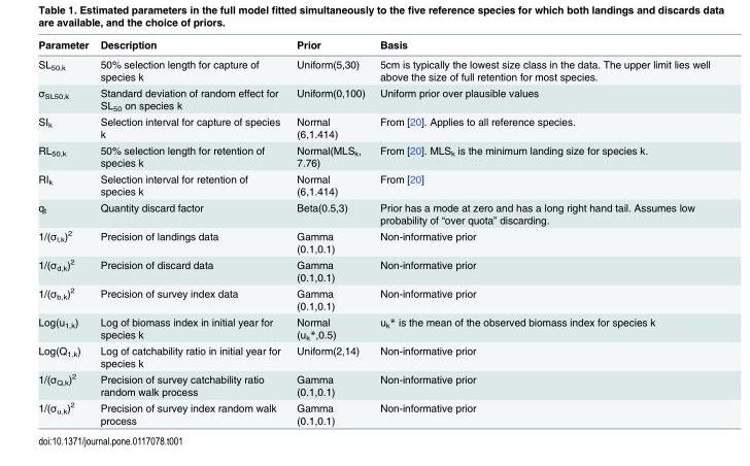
<table><thead><tr><td>Parameter</td><td>Description</td><td>Prior</td><td>Basis</td></tr></thead><tbody><tr><td>SL<sub>50,k</sub></td><td>50% selection length for capture of species k</td><td>Uniform(5,30)</td><td>5cm is typically the lowest size class in the data. The upper limit lies well above the size of full retention for most species.</td></tr><tr><td>σ<sub>SL50,k</sub></td><td>Standard deviation of random effect for SL<sub>50</sub> on species k</td><td>Uniform(0,100)</td><td>Uniform prior over plausible values</td></tr><tr><td>SI<sub>k</sub></td><td>Selection interval for capture of species k</td><td>Normal (6,1.414)</td><td>From [20]. Applies to all reference species.</td></tr><tr><td>RL<sub>50,k</sub></td><td>50% selection length for retention of species k</td><td>Normal(MLS<sub>k</sub>, 7.76)</td><td>From [20]. MLS<sub>k</sub> is the minimum landing size for species k.</td></tr><tr><td>RI<sub>k</sub></td><td>Selection interval for retention of species k</td><td>Normal (6,1.414)</td><td>From [20]</td></tr><tr><td>q<sub>t</sub></td><td>Quantity discard factor</td><td>Beta(0.5,3)</td><td>Prior has a mode at zero and has a long right hand tail. Assumes low probability of “over quota” discarding.</td></tr><tr><td>1/(σ<sub>l,k</sub>)<sup>2</sup></td><td>Precision of landings data</td><td>Gamma (0.1,0.1)</td><td>Non-informative prior</td></tr><tr><td>1/(σ<sub>d,k</sub>)<sup>2</sup></td><td>Precision of discard data</td><td>Gamma (0.1,0.1)</td><td>Non-informative prior</td></tr><tr><td>1/(σ<sub>b,k</sub>)<sup>2</sup></td><td>Precision of survey index data</td><td>Gamma (0.1,0.1)</td><td>Non-informative prior</td></tr><tr><td>Log(u<sub>1,k</sub>)</td><td>Log of biomass index in initial year for species k</td><td>Normal (u<sub>k</sub>*,0.5)</td><td>u<sub>k</sub>* is the mean of the observed biomass index for species k</td></tr><tr><td>Log(Q<sub>1,k</sub>)</td><td>Log of catchability ratio in initial year for species k</td><td>Uniform(2,14)</td><td>Non-informative prior</td></tr><tr><td>1/(σ<sub>Q,k</sub>)<sup>2</sup></td><td>Precision of survey catchability ratio random walk process</td><td>Gamma (0.1,0.1)</td><td>Non-informative prior</td></tr><tr><td>1/(σ<sub>u,k</sub>)<sup>2</sup></td><td>Precision of survey index random walk process</td><td>Gamma (0.1,0.1)</td><td>Non-informative prior</td></tr></tbody></table>